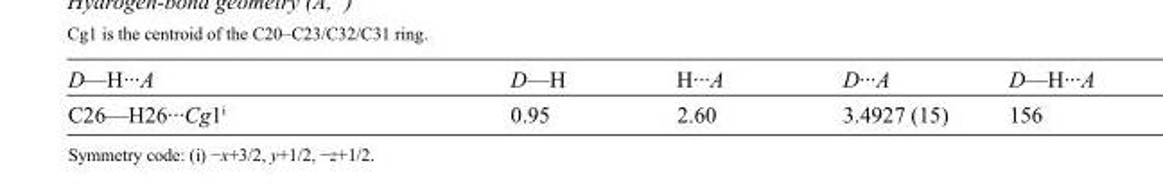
<table><tbody><tr><td>D—H···A</td><td>D—H</td><td>H···A</td><td>D···A</td><td>D—H···A</td></tr><tr><td>C26—H26···Cg1<sup>i</sup></td><td>0.95</td><td>2.60</td><td>3.4927 (15)</td><td>156</td></tr></tbody></table>